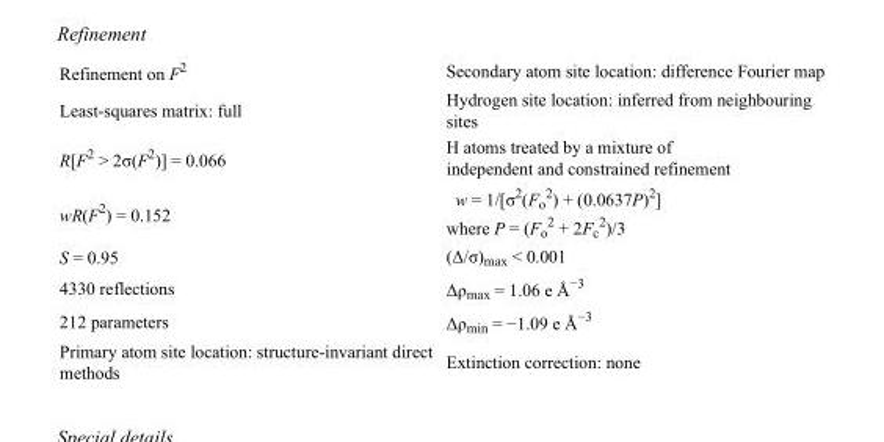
<table><tbody><tr><td>Refinement on F<sup>2</sup></td><td>Secondary atom site location: difference Fourier map</td></tr><tr><td>Least-squares matrix: full</td><td>Hydrogen site location: inferred from neighbouring sites</td></tr><tr><td>R[F<sup>2</sup> &gt; 2σ(F<sup>2</sup>)] = 0.066</td><td>H atoms treated by a mixture of independent and constrained refinement</td></tr><tr><td>wR(F<sup>2</sup>) = 0.152</td><td>w = 1/[σ<sup>2</sup>(F<sub>o</sub> <sup>2</sup>) + (0.0637P)<sup>2</sup>] where P = (F<sub>o</sub> <sup>2</sup> + 2F<sub>c</sub> <sup>2</sup>)/3</td></tr><tr><td>S = 0.95</td><td>(Δ/σ)<sub>max</sub> &lt; 0.001</td></tr><tr><td>4330 reflections</td><td>Δρ<sub>max</sub> = 1.06 e Å<sup>−3</sup></td></tr><tr><td>212 parameters</td><td>Δρ<sub>min</sub> = −1.09 e Å<sup>−3</sup></td></tr><tr><td>Primary atom site location: structure-invariant direct methods</td><td>Extinction correction: none</td></tr></tbody></table>